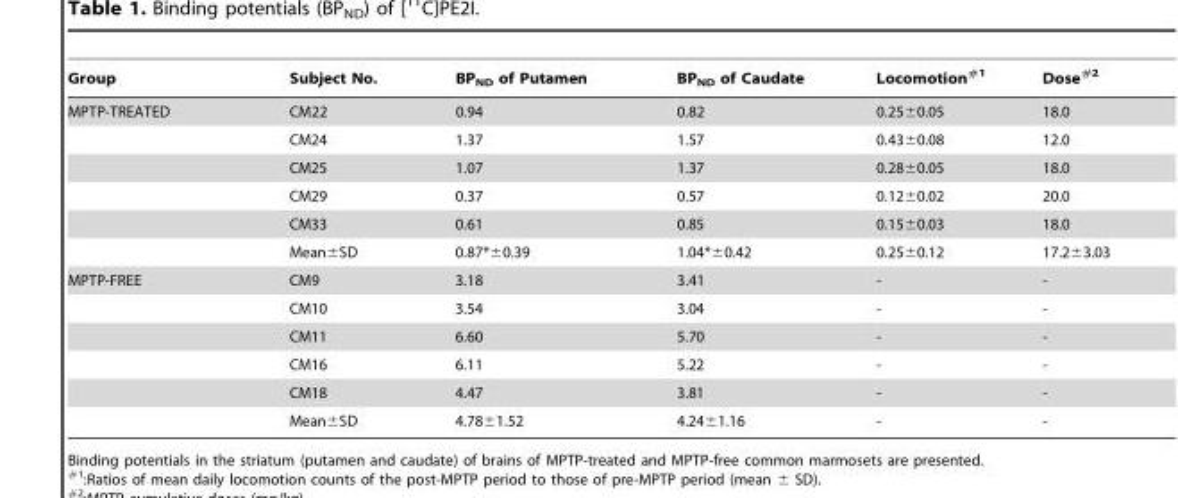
<table><thead><tr><td>Group</td><td>Subject No.</td><td>BP<sub>ND</sub> of Putamen</td><td>BP<sub>ND</sub> of Caudate</td><td>Locomotion#1</td><td>Dose#2</td></tr></thead><tbody><tr><td rowspan="6">MPTP-TREATED</td><td>CM22</td><td>0.94</td><td>0.82</td><td>0.25±0.05</td><td>18.0</td></tr><tr><td>CM24</td><td>1.37</td><td>1.57</td><td>0.43±0.08</td><td>12.0</td></tr><tr><td>CM25</td><td>1.07</td><td>1.37</td><td>0.28±0.05</td><td>18.0</td></tr><tr><td>CM29</td><td>0.37</td><td>0.57</td><td>0.12±0.02</td><td>20.0</td></tr><tr><td>CM33</td><td>0.61</td><td>0.85</td><td>0.15±0.03</td><td>18.0</td></tr><tr><td>Mean±SD</td><td>0.87*±0.39</td><td>1.04*±0.42</td><td>0.25±0.12</td><td>17.2±3.03</td></tr><tr><td rowspan="6">MPTP-FREE</td><td>CM9</td><td>3.18</td><td>3.41</td><td>-</td><td>-</td></tr><tr><td>CM10</td><td>3.54</td><td>3.04</td><td>-</td><td>-</td></tr><tr><td>CM11</td><td>6.60</td><td>5.70</td><td>-</td><td>-</td></tr><tr><td>CM16</td><td>6.11</td><td>5.22</td><td>-</td><td>-</td></tr><tr><td>CM18</td><td>4.47</td><td>3.81</td><td>-</td><td>-</td></tr><tr><td>Mean±SD</td><td>4.78±1.52</td><td>4.24±1.16</td><td>-</td><td>-</td></tr></tbody></table>